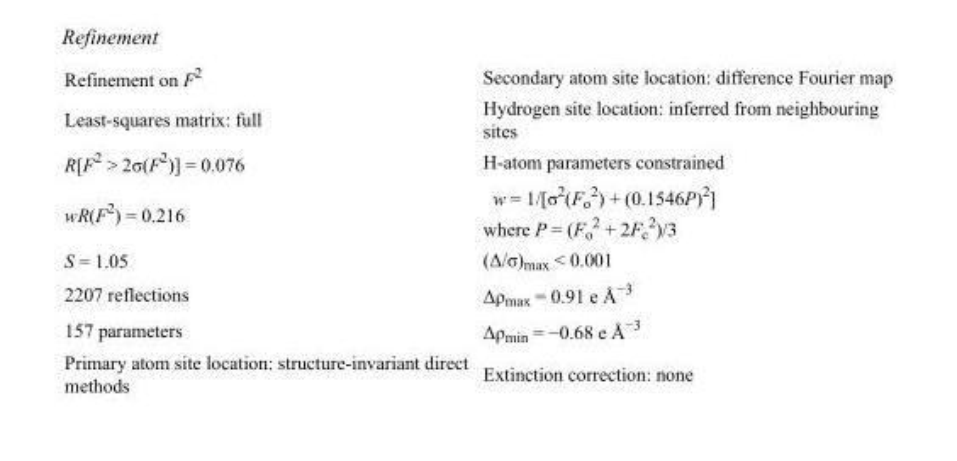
<table><tbody><tr><td>Refinement on F<sup>2</sup></td><td>Secondary atom site location: difference Fourier map</td></tr><tr><td>Least-squares matrix: full</td><td>Hydrogen site location: inferred from neighbouring sites</td></tr><tr><td>R[F<sup>2</sup> &gt; 2σ(F<sup>2</sup>)] = 0.076</td><td>H-atom parameters constrained</td></tr><tr><td>wR(F<sup>2</sup>) = 0.216</td><td>w = 1/[σ<sup>2</sup>(F<sub>o</sub> <sup>2</sup>) + (0.1546P)<sup>2</sup>] where P = (F<sub>o</sub> <sup>2</sup> + 2F<sub>c</sub> <sup>2</sup>)/3</td></tr><tr><td>S = 1.05</td><td>(Δ/σ)<sub>max</sub> &lt; 0.001</td></tr><tr><td>2207 reflections</td><td>Δρ<sub>max</sub> = 0.91 e Å<sup>−3</sup></td></tr><tr><td>157 parameters</td><td>Δρ<sub>min</sub> = −0.68 e Å<sup>−3</sup></td></tr><tr><td>Primary atom site location: structure-invariant direct methods</td><td>Extinction correction: none</td></tr></tbody></table>